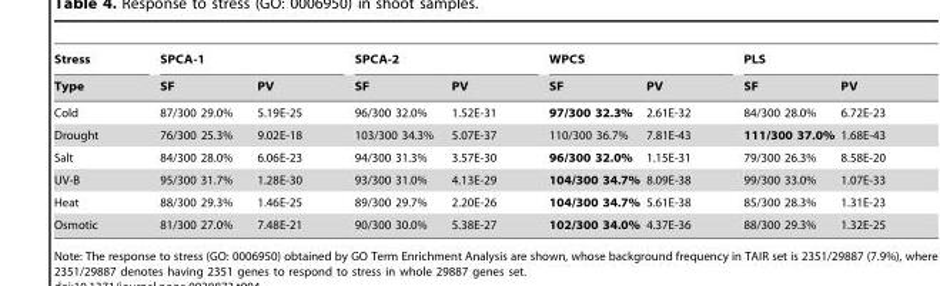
<table><thead><tr><td rowspan="2">Stress Type</td><td colspan="2">SPCA-1</td><td colspan="2">SPCA-2</td><td colspan="2">WPCS</td><td colspan="2">PLS</td></tr><tr><td>SF</td><td>PV</td><td>SF</td><td>PV</td><td>SF</td><td>PV</td><td>SF</td><td>PV</td></tr></thead><tbody><tr><td>Cold</td><td>87/300 29.0%</td><td>5.19E-25</td><td>96/300 32.0%</td><td>1.52E-31</td><td>97/300 32.3%</td><td>2.61E-32</td><td>84/300 28.0%</td><td>6.72E-23</td></tr><tr><td>Drought</td><td>76/300 25.3%</td><td>9.02E-18</td><td>103/300 34.3%</td><td>5.07E-37</td><td>110/300 36.7%</td><td>7.81E-43</td><td>111/300 37.0%</td><td>1.68E-43</td></tr><tr><td>Salt</td><td>84/300 28.0%</td><td>6.06E-23</td><td>94/300 31.3%</td><td>3.57E-30</td><td>96/300 32.0%</td><td>1.15E-31</td><td>79/300 26.3%</td><td>8.58E-20</td></tr><tr><td>UV-B</td><td>95/300 31.7%</td><td>1.28E-30</td><td>93/300 31.0%</td><td>4.13E-29</td><td>104/300 34.7%</td><td>8.09E-38</td><td>99/300 33.0%</td><td>1.07E-33</td></tr><tr><td>Heat</td><td>88/300 29.3%</td><td>1.46E-25</td><td>89/300 29.7%</td><td>2.20E-26</td><td>104/300 34.7%</td><td>5.61E-38</td><td>85/300 28.3%</td><td>1.31E-23</td></tr><tr><td>Osmotic</td><td>81/300 27.0%</td><td>7.48E-21</td><td>90/300 30.0%</td><td>5.38E-27</td><td>102/300 34.0%</td><td>4.37E-36</td><td>88/300 29.3%</td><td>1.32E-25</td></tr></tbody></table>